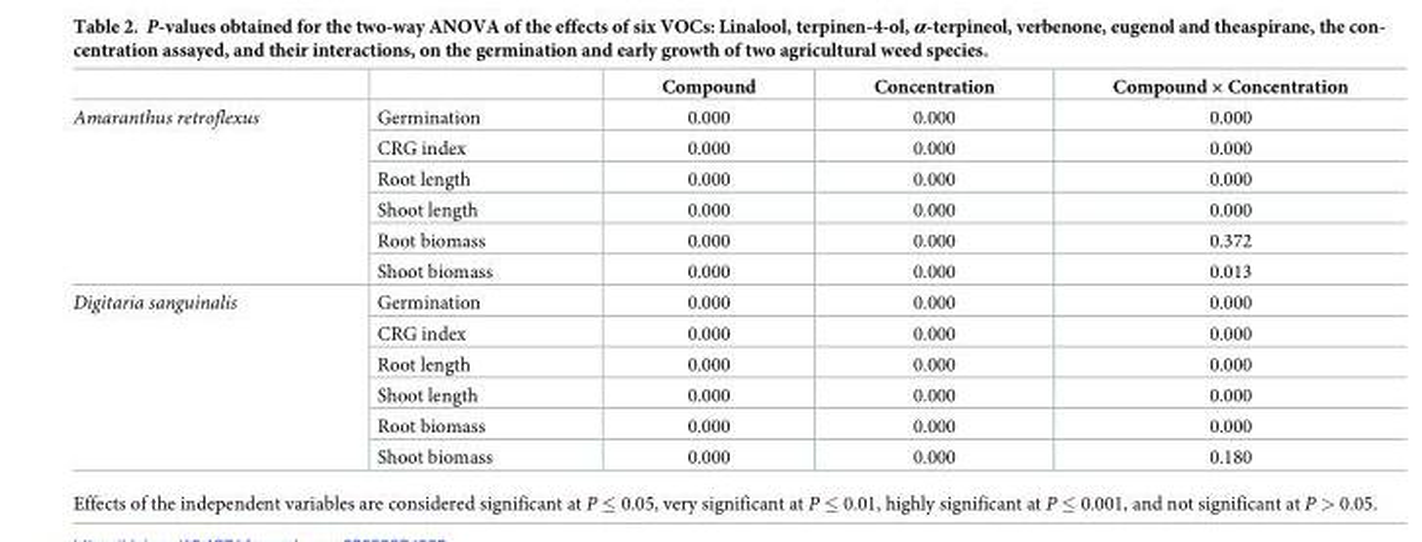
<table><thead><tr><td></td><td></td><td>Compound</td><td>Concentration</td><td>Compound × Concentration</td></tr></thead><tbody><tr><td rowspan="6">Amaranthus retroflexus</td><td>Germination</td><td>0.000</td><td>0.000</td><td>0.000</td></tr><tr><td>CRG index</td><td>0.000</td><td>0.000</td><td>0.000</td></tr><tr><td>Root length</td><td>0.000</td><td>0.000</td><td>0.000</td></tr><tr><td>Shoot length</td><td>0.000</td><td>0.000</td><td>0.000</td></tr><tr><td>Root biomass</td><td>0.000</td><td>0.000</td><td>0.372</td></tr><tr><td>Shoot biomass</td><td>0.000</td><td>0.000</td><td>0.013</td></tr><tr><td rowspan="6">Digitaria sanguinalis</td><td>Germination</td><td>0.000</td><td>0.000</td><td>0.000</td></tr><tr><td>CRG index</td><td>0.000</td><td>0.000</td><td>0.000</td></tr><tr><td>Root length</td><td>0.000</td><td>0.000</td><td>0.000</td></tr><tr><td>Shoot length</td><td>0.000</td><td>0.000</td><td>0.000</td></tr><tr><td>Root biomass</td><td>0.000</td><td>0.000</td><td>0.000</td></tr><tr><td>Shoot biomass</td><td>0.000</td><td>0.000</td><td>0.180</td></tr></tbody></table>